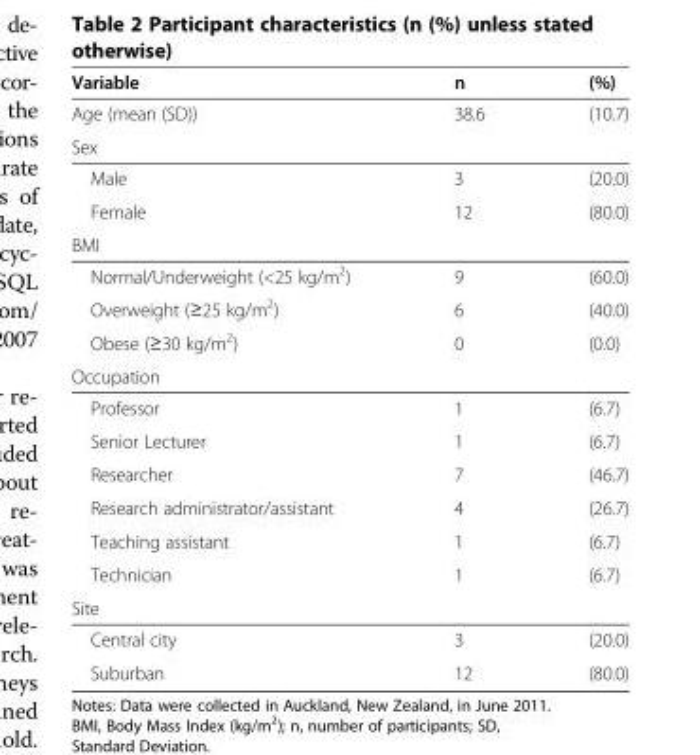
<table><thead><tr><td>Variable</td><td>n</td><td>(%)</td></tr></thead><tbody><tr><td>Age (mean (SD))</td><td>38.6</td><td>(10.7)</td></tr><tr><td colspan="3">Sex</td></tr><tr><td>Male</td><td>3</td><td>(20.0)</td></tr><tr><td>Female</td><td>12</td><td>(80.0)</td></tr><tr><td colspan="3">BMI</td></tr><tr><td>Normal/Underweight (&lt;25 kg/m<sup>2</sup>)</td><td>9</td><td>(60.0)</td></tr><tr><td>Overweight (≥25 kg/m<sup>2</sup>)</td><td>6</td><td>(40.0)</td></tr><tr><td>Obese (≥30 kg/m<sup>2</sup>)</td><td>0</td><td>(0.0)</td></tr><tr><td colspan="3">Occupation</td></tr><tr><td>Professor</td><td>1</td><td>(6.7)</td></tr><tr><td>Senior Lecturer</td><td>1</td><td>(6.7)</td></tr><tr><td>Researcher</td><td>7</td><td>(46.7)</td></tr><tr><td>Research administrator/assistant</td><td>4</td><td>(26.7)</td></tr><tr><td>Teaching assistant</td><td>1</td><td>(6.7)</td></tr><tr><td>Technician</td><td>1</td><td>(6.7)</td></tr><tr><td colspan="3">Site</td></tr><tr><td>Central city</td><td>3</td><td>(20.0)</td></tr><tr><td>Suburban</td><td>12</td><td>(80.0)</td></tr></tbody></table>